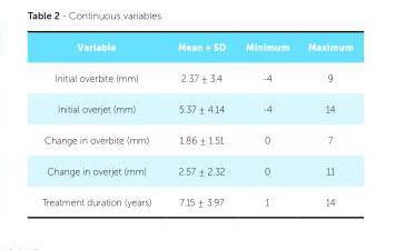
<table><thead><tr><td>Variable</td><td>Mean + SD</td><td>Minimum</td><td>Maximum</td></tr></thead><tbody><tr><td>Initial overbite (mm)</td><td>2.37 ± 3.4</td><td>-4</td><td>9</td></tr><tr><td>Initial overjet (mm)</td><td>5.37 ± 4.14</td><td>-4</td><td>14</td></tr><tr><td>Change in overbite (mm)</td><td>1.86 ± 1.51</td><td>0</td><td>7</td></tr><tr><td>Change in overjet (mm)</td><td>2.57 ± 2.32</td><td>0</td><td>11</td></tr><tr><td>Treatment duration (years)</td><td>7.15 ± 3.97</td><td>1</td><td>14</td></tr></tbody></table>